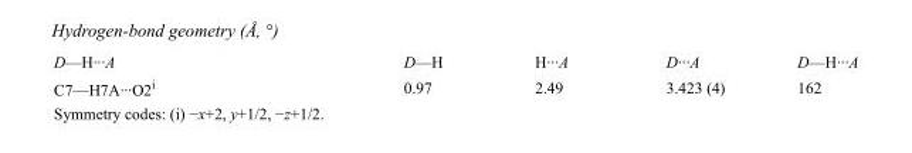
<table><tbody><tr><td>D—H···A</td><td>D—H</td><td>H···A</td><td>D···A</td><td>D—H···A</td></tr><tr><td>C7—H7A···O2<sup>i</sup></td><td>0.97</td><td>2.49</td><td>3.423 (4)</td><td>162</td></tr></tbody></table>